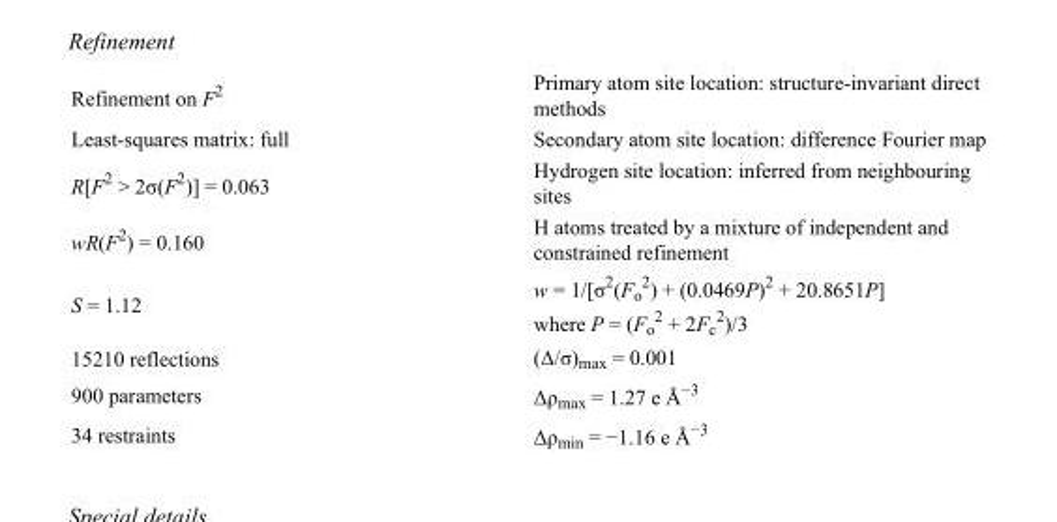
<table><tbody><tr><td>Refinement on F<sup>2</sup></td><td>Primary atom site location: structure-invariant direct methods</td></tr><tr><td>Least-squares matrix: full</td><td>Secondary atom site location: difference Fourier map</td></tr><tr><td>R[F<sup>2</sup> &gt; 2σ(F<sup>2</sup>)] = 0.063</td><td>Hydrogen site location: inferred from neighbouring sites</td></tr><tr><td>wR(F<sup>2</sup>) = 0.160</td><td>H atoms treated by a mixture of independent and constrained refinement</td></tr><tr><td>S = 1.12</td><td>w = 1/[σ<sup>2</sup>(F<sub>o</sub> <sup>2</sup>) + (0.0469P)<sup>2</sup> + 20.8651P] where P = (F<sub>o</sub> <sup>2</sup> + 2F<sub>c</sub> <sup>2</sup>)/3</td></tr><tr><td>15210 reflections</td><td>(Δ/σ)<sub>max</sub> = 0.001</td></tr><tr><td>900 parameters</td><td>Δρ<sub>max</sub> = 1.27 e Å<sup>−3</sup></td></tr><tr><td>34 restraints</td><td>Δρ<sub>min</sub> = −1.16 e Å<sup>−3</sup></td></tr></tbody></table>